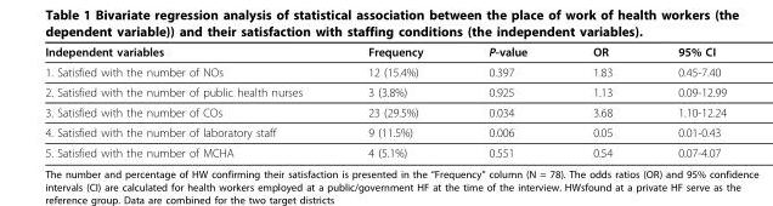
<table><thead><tr><td>Independent variables</td><td>Frequency</td><td>P-value</td><td>OR</td><td>95% CI</td></tr></thead><tbody><tr><td>1. Satisfied with the number of NOs</td><td>12 (15.4%)</td><td>0.397</td><td>1.83</td><td>0.45-7.40</td></tr><tr><td>2. Satisfied with the number of public health nurses</td><td>3 (3.8%)</td><td>0.925</td><td>1.13</td><td>0.09-12.99</td></tr><tr><td>3. Satisfied with the number of COs</td><td>23 (29.5%)</td><td>0.034</td><td>3.68</td><td>1.10-12.24</td></tr><tr><td>4. Satisfied with the number of laboratory staff</td><td>9 (11.5%)</td><td>0.006</td><td>0.05</td><td>0.01-0.43</td></tr><tr><td>5. Satisfied with the number of MCHA</td><td>4 (5.1%)</td><td>0.551</td><td>0.54</td><td>0.07-4.07</td></tr></tbody></table>